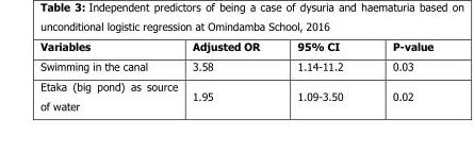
<table><thead><tr><td>Variables</td><td>Adjusted OR</td><td>95% CI</td><td>P-value</td></tr></thead><tbody><tr><td>Swimming in the canal</td><td>3.58</td><td>1.14-11.2</td><td>0.03</td></tr><tr><td>Etaka (big pond) as source of water</td><td>1.95</td><td>1.09-3.50</td><td>0.02</td></tr></tbody></table>